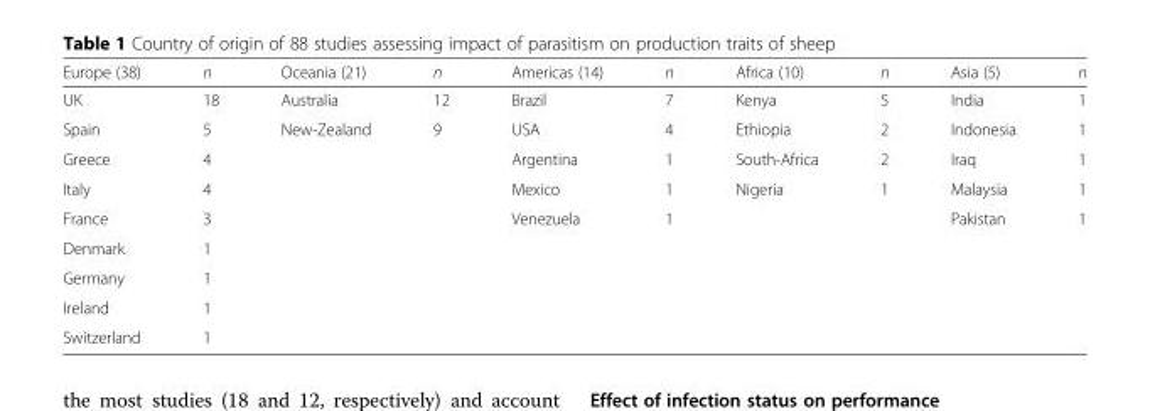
<table><thead><tr><td>Europe (38)</td><td>n</td><td>Oceania (21)</td><td>n</td><td>Americas (14)</td><td>n</td><td>Africa (10)</td><td>n</td><td>Asia (5)</td><td>n</td></tr></thead><tbody><tr><td>UK</td><td>18</td><td>Australia</td><td>12</td><td>Brazil</td><td>7</td><td>Kenya</td><td>5</td><td>India</td><td>1</td></tr><tr><td>Spain</td><td>5</td><td>New-Zealand</td><td>9</td><td>USA</td><td>4</td><td>Ethiopia</td><td>2</td><td>Indonesia</td><td>1</td></tr><tr><td>Greece</td><td>4</td><td></td><td></td><td>Argentina</td><td>1</td><td>South-Africa</td><td>2</td><td>Iraq</td><td>1</td></tr><tr><td>Italy</td><td>4</td><td></td><td></td><td>Mexico</td><td>1</td><td>Nigeria</td><td>1</td><td>Malaysia</td><td>1</td></tr><tr><td>France</td><td>3</td><td></td><td></td><td>Venezuela</td><td>1</td><td></td><td></td><td>Pakistan</td><td>1</td></tr><tr><td>Denmark</td><td>1</td><td></td><td></td><td></td><td></td><td></td><td></td><td></td><td></td></tr><tr><td>Germany</td><td>1</td><td></td><td></td><td></td><td></td><td></td><td></td><td></td><td></td></tr><tr><td>Ireland</td><td>1</td><td></td><td></td><td></td><td></td><td></td><td></td><td></td><td></td></tr><tr><td>Switzerland</td><td>1</td><td></td><td></td><td></td><td></td><td></td><td></td><td></td><td></td></tr></tbody></table>